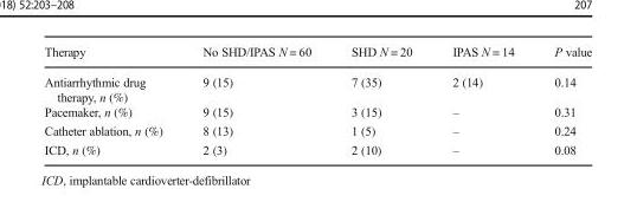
<table><thead><tr><td>Therapy</td><td>No SHD/IPAS N = 60</td><td>SHD N = 20</td><td>IPAS N = 14</td><td>P value</td></tr></thead><tbody><tr><td>Antiarrhythmic drug therapy, n (%)</td><td>9 (15)</td><td>7 (35)</td><td>2 (14)</td><td>0.14</td></tr><tr><td>Pacemaker, n (%)</td><td>9 (15)</td><td>3 (15)</td><td>–</td><td>0.31</td></tr><tr><td>Catheter ablation, n (%)</td><td>8 (13)</td><td>1 (5)</td><td>–</td><td>0.24</td></tr><tr><td>ICD, n (%)</td><td>2 (3)</td><td>2 (10)</td><td>–</td><td>0.08</td></tr></tbody></table>